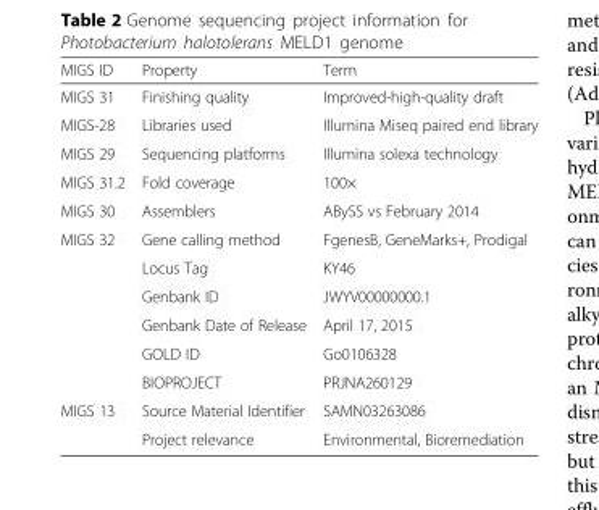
<table><thead><tr><td>MIGS ID</td><td>Property</td><td>Term</td></tr></thead><tbody><tr><td>MIGS 31</td><td>Finishing quality</td><td>Improved-high-quality draft</td></tr><tr><td>MIGS-28</td><td>Libraries used</td><td>Illumina Miseq paired end library</td></tr><tr><td>MIGS 29</td><td>Sequencing platforms</td><td>Illumina solexa technology</td></tr><tr><td>MIGS 31.2</td><td>Fold coverage</td><td>100×</td></tr><tr><td>MIGS 30</td><td>Assemblers</td><td>ABySS vs February 2014</td></tr><tr><td rowspan="6">MIGS 32</td><td>Gene calling method</td><td>FgenesB, GeneMarks+, Prodigal</td></tr><tr><td>Locus Tag</td><td>KY46</td></tr><tr><td>Genbank ID</td><td>JWYV00000000.1</td></tr><tr><td>Genbank Date of Release</td><td>April 17, 2015</td></tr><tr><td>GOLD ID</td><td>Go0106328</td></tr><tr><td>BIOPROJECT</td><td>PRJNA260129</td></tr><tr><td rowspan="2">MIGS 13</td><td>Source Material Identifier</td><td>SAMN03263086</td></tr><tr><td>Project relevance</td><td>Environmental, Bioremediation</td></tr></tbody></table>